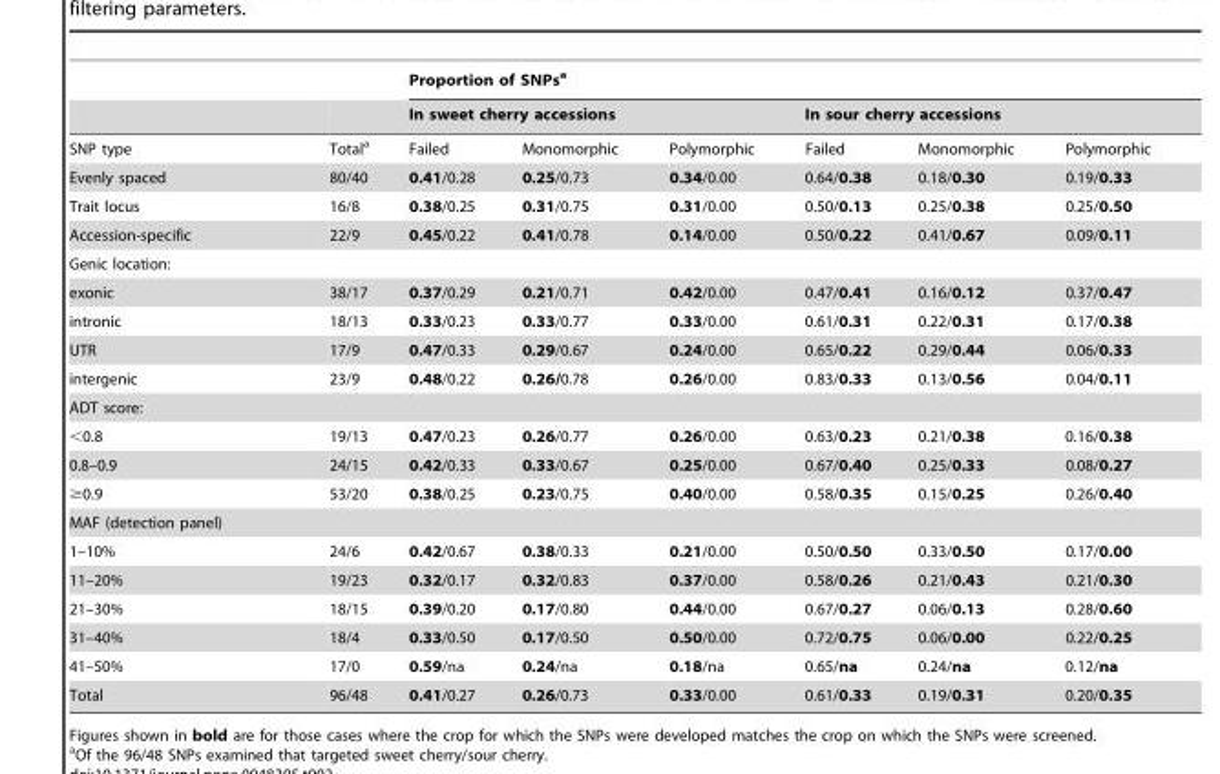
<table><thead><tr><td rowspan="3">SNP type</td><td rowspan="3">Total<sup>a</sup></td><td colspan="6">Proportion of SNPs<sup>a</sup></td></tr><tr><td colspan="3">In sweet cherry accessions</td><td colspan="3">In sour cherry accessions</td></tr><tr><td>Failed</td><td>Monomorphic</td><td>Polymorphic</td><td>Failed</td><td>Monomorphic</td><td>Polymorphic</td></tr></thead><tbody><tr><td>Evenly spaced</td><td>80/40</td><td>0.41/0.28</td><td>0.25/0.73</td><td>0.34/0.00</td><td>0.64/0.38</td><td>0.18/0.30</td><td>0.19/0.33</td></tr><tr><td>Trait locus</td><td>16/8</td><td>0.38/0.25</td><td>0.31/0.75</td><td>0.31/0.00</td><td>0.50/0.13</td><td>0.25/0.38</td><td>0.25/0.50</td></tr><tr><td>Accession-specific</td><td>22/9</td><td>0.45/0.22</td><td>0.41/0.78</td><td>0.14/0.00</td><td>0.50/0.22</td><td>0.41/0.67</td><td>0.09/0.11</td></tr><tr><td colspan="8">Genic location:</td></tr><tr><td>exonic</td><td>38/17</td><td>0.37/0.29</td><td>0.21/0.71</td><td>0.42/0.00</td><td>0.47/0.41</td><td>0.16/0.12</td><td>0.37/0.47</td></tr><tr><td>intronic</td><td>18/13</td><td>0.33/0.23</td><td>0.33/0.77</td><td>0.33/0.00</td><td>0.61/0.31</td><td>0.22/0.31</td><td>0.17/0.38</td></tr><tr><td>UTR</td><td>17/9</td><td>0.47/0.33</td><td>0.29/0.67</td><td>0.24/0.00</td><td>0.65/0.22</td><td>0.29/0.44</td><td>0.06/0.33</td></tr><tr><td>intergenic</td><td>23/9</td><td>0.48/0.22</td><td>0.26/0.78</td><td>0.26/0.00</td><td>0.83/0.33</td><td>0.13/0.56</td><td>0.04/0.11</td></tr><tr><td colspan="8">ADT score:</td></tr><tr><td>&lt;0.8</td><td>19/13</td><td>0.47/0.23</td><td>0.26/0.77</td><td>0.26/0.00</td><td>0.63/0.23</td><td>0.21/0.38</td><td>0.16/0.38</td></tr><tr><td>0.8–0.9</td><td>24/15</td><td>0.42/0.33</td><td>0.33/0.67</td><td>0.25/0.00</td><td>0.67/0.40</td><td>0.25/0.33</td><td>0.08/0.27</td></tr><tr><td>≥0.9</td><td>53/20</td><td>0.38/0.25</td><td>0.23/0.75</td><td>0.40/0.00</td><td>0.58/0.35</td><td>0.15/0.25</td><td>0.26/0.40</td></tr><tr><td colspan="8">MAF (detection panel)</td></tr><tr><td>1–10%</td><td>24/6</td><td>0.42/0.67</td><td>0.38/0.33</td><td>0.21/0.00</td><td>0.50/0.50</td><td>0.33/0.50</td><td>0.17/0.00</td></tr><tr><td>11–20%</td><td>19/23</td><td>0.32/0.17</td><td>0.32/0.83</td><td>0.37/0.00</td><td>0.58/0.26</td><td>0.21/0.43</td><td>0.21/0.30</td></tr><tr><td>21–30%</td><td>18/15</td><td>0.39/0.20</td><td>0.17/0.80</td><td>0.44/0.00</td><td>0.67/0.27</td><td>0.06/0.13</td><td>0.28/0.60</td></tr><tr><td>31–40%</td><td>18/4</td><td>0.33/0.50</td><td>0.17/0.50</td><td>0.50/0.00</td><td>0.72/0.75</td><td>0.06/0.00</td><td>0.22/0.25</td></tr><tr><td>41–50%</td><td>17/0</td><td>0.59/na</td><td>0.24/na</td><td>0.18/na</td><td>0.65/na</td><td>0.24/na</td><td>0.12/na</td></tr><tr><td>Total</td><td>96/48</td><td>0.41/0.27</td><td>0.26/0.73</td><td>0.33/0.00</td><td>0.61/0.33</td><td>0.19/0.31</td><td>0.20/0.35</td></tr></tbody></table>